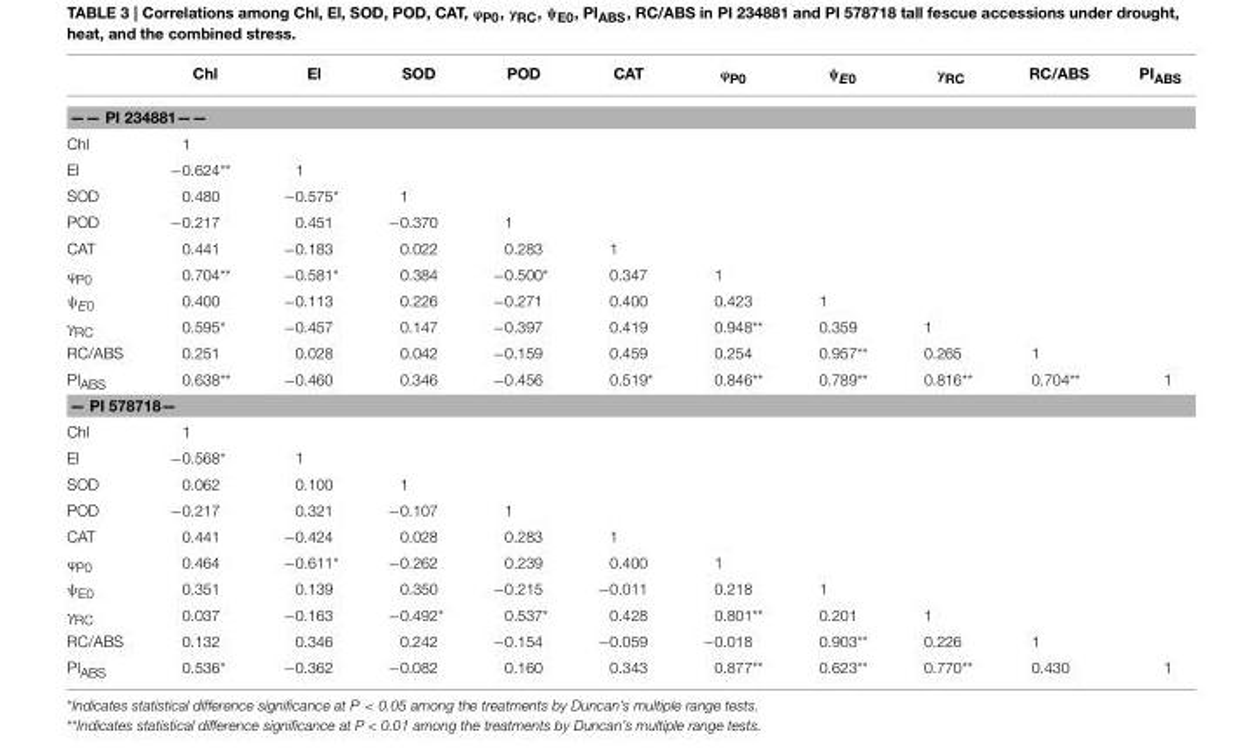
<table><thead><tr><td></td><td>Chl</td><td>El</td><td>SOD</td><td>POD</td><td>CAT</td><td>ϕ<sub>P0</sub></td><td>ψ<sub>E0</sub></td><td>γ<sub>RC</sub></td><td>RC/ABS</td><td>PI<sub>ABS</sub></td></tr></thead><tbody><tr><td colspan="11">—— PI 234881——</td></tr><tr><td>Chl</td><td>1</td><td></td><td></td><td></td><td></td><td></td><td></td><td></td><td></td><td></td></tr><tr><td>El</td><td>−0.624**</td><td>1</td><td></td><td></td><td></td><td></td><td></td><td></td><td></td><td></td></tr><tr><td>SOD</td><td>0.480</td><td>−0.575*</td><td>1</td><td></td><td></td><td></td><td></td><td></td><td></td><td></td></tr><tr><td>POD</td><td>−0.217</td><td>0.451</td><td>−0.370</td><td>1</td><td></td><td></td><td></td><td></td><td></td><td></td></tr><tr><td>CAT</td><td>0.441</td><td>−0.183</td><td>0.022</td><td>0.283</td><td>1</td><td></td><td></td><td></td><td></td><td></td></tr><tr><td>ϕ<sub>P0</sub></td><td>0.704**</td><td>−0.581*</td><td>0.384</td><td>−0.500*</td><td>0.347</td><td>1</td><td></td><td></td><td></td><td></td></tr><tr><td>ψ<sub>E0</sub></td><td>0.400</td><td>−0.113</td><td>0.226</td><td>−0.271</td><td>0.400</td><td>0.423</td><td>1</td><td></td><td></td><td></td></tr><tr><td>γ<sub>RC</sub></td><td>0.595*</td><td>−0.457</td><td>0.147</td><td>−0.397</td><td>0.419</td><td>0.948**</td><td>0.359</td><td>1</td><td></td><td></td></tr><tr><td>RC/ABS</td><td>0.251</td><td>0.028</td><td>0.042</td><td>−0.159</td><td>0.459</td><td>0.254</td><td>0.957**</td><td>0.265</td><td>1</td><td></td></tr><tr><td>PI<sub>ABS</sub></td><td>0.638**</td><td>−0.460</td><td>0.346</td><td>−0.456</td><td>0.519*</td><td>0.846**</td><td>0.789**</td><td>0.816**</td><td>0.704**</td><td>1</td></tr><tr><td colspan="11">— PI 578718—</td></tr><tr><td>Chl</td><td>1</td><td></td><td></td><td></td><td></td><td></td><td></td><td></td><td></td><td></td></tr><tr><td>El</td><td>−0.568*</td><td>1</td><td></td><td></td><td></td><td></td><td></td><td></td><td></td><td></td></tr><tr><td>SOD</td><td>0.062</td><td>0.100</td><td>1</td><td></td><td></td><td></td><td></td><td></td><td></td><td></td></tr><tr><td>POD</td><td>−0.217</td><td>0.321</td><td>−0.107</td><td>1</td><td></td><td></td><td></td><td></td><td></td><td></td></tr><tr><td>CAT</td><td>0.441</td><td>−0.424</td><td>0.028</td><td>0.283</td><td>1</td><td></td><td></td><td></td><td></td><td></td></tr><tr><td>ϕ<sub>P0</sub></td><td>0.464</td><td>−0.611*</td><td>−0.262</td><td>0.239</td><td>0.400</td><td>1</td><td></td><td></td><td></td><td></td></tr><tr><td>ψ<sub>E0</sub></td><td>0.351</td><td>0.139</td><td>0.350</td><td>−0.215</td><td>−0.011</td><td>0.218</td><td>1</td><td></td><td></td><td></td></tr><tr><td>γ<sub>RC</sub></td><td>0.037</td><td>−0.163</td><td>−0.492*</td><td>0.537*</td><td>0.428</td><td>0.801**</td><td>0.201</td><td>1</td><td></td><td></td></tr><tr><td>RC/ABS</td><td>0.132</td><td>0.346</td><td>0.242</td><td>−0.154</td><td>−0.059</td><td>−0.018</td><td>0.903**</td><td>0.226</td><td>1</td><td></td></tr><tr><td>PI<sub>ABS</sub></td><td>0.536*</td><td>−0.362</td><td>−0.082</td><td>0.160</td><td>0.343</td><td>0.877**</td><td>0.623**</td><td>0.770**</td><td>0.430</td><td>1</td></tr></tbody></table>